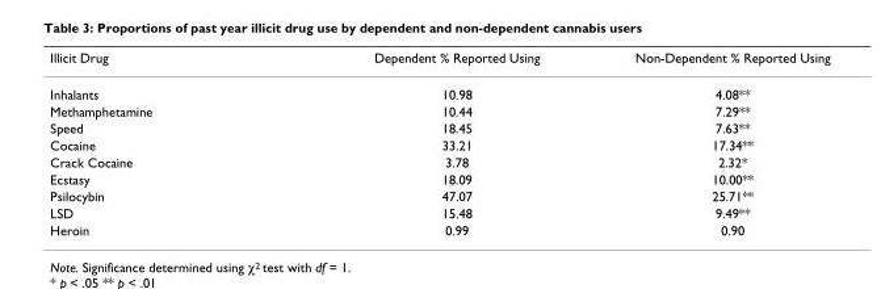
<table><thead><tr><td>Illicit Drug</td><td>Dependent % Reported Using</td><td>Non-Dependent % Reported Using</td></tr></thead><tbody><tr><td>Inhalants</td><td>10.98</td><td>4.08**</td></tr><tr><td>Methamphetamine</td><td>10.44</td><td>7.29**</td></tr><tr><td>Speed</td><td>18.45</td><td>7.63**</td></tr><tr><td>Cocaine</td><td>33.21</td><td>17.34**</td></tr><tr><td>Crack Cocaine</td><td>3.78</td><td>2.32*</td></tr><tr><td>Ecstasy</td><td>18.09</td><td>10.00**</td></tr><tr><td>Psilocybin</td><td>47.07</td><td>25.71**</td></tr><tr><td>LSD</td><td>15.48</td><td>9.49**</td></tr><tr><td>Heroin</td><td>0.99</td><td>0.90</td></tr></tbody></table>